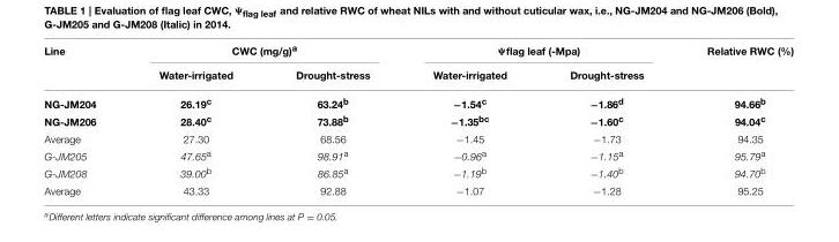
<table><thead><tr><td rowspan="2">Line</td><td colspan="2">CWC (mg/g)<sup>a</sup></td><td colspan="2">Ψflag leaf (-Mpa)</td><td rowspan="2">Relative RWC (%)</td></tr><tr><td>Water-irrigated</td><td>Drought-stress</td><td>Water-irrigated</td><td>Drought-stress</td></tr></thead><tbody><tr><td>NG-JM204</td><td>26.19<sup>c</sup></td><td>63.24<sup>b</sup></td><td>−1.54<sup>c</sup></td><td>−1.86<sup>d</sup></td><td>94.66<sup>b</sup></td></tr><tr><td>NG-JM206</td><td>28.40<sup>c</sup></td><td>73.88<sup>b</sup></td><td>−1.35<sup>bc</sup></td><td>−1.60<sup>c</sup></td><td>94.04<sup>c</sup></td></tr><tr><td>Average</td><td>27.30</td><td>68.56</td><td>−1.45</td><td>−1.73</td><td>94.35</td></tr><tr><td>G-JM205</td><td>47.65<sup>a</sup></td><td>98.91<sup>a</sup></td><td>−0.96<sup>a</sup></td><td>−1.15<sup>a</sup></td><td>95.79<sup>a</sup></td></tr><tr><td>G-JM208</td><td>39.00<sup>b</sup></td><td>86.85<sup>a</sup></td><td>−1.19<sup>b</sup></td><td>−1.40<sup>b</sup></td><td>94.70<sup>b</sup></td></tr><tr><td>Average</td><td>43.33</td><td>92.88</td><td>−1.07</td><td>−1.28</td><td>95.25</td></tr></tbody></table>